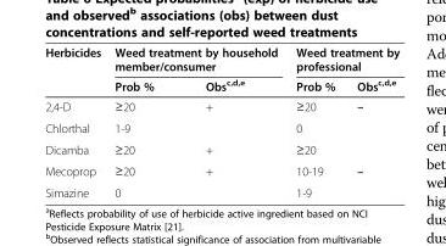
<table><thead><tr><td rowspan="2">Herbicides</td><td colspan="2">Weed treatment by household member/consumer</td><td colspan="2">Weed treatment by professional</td></tr><tr><td>Prob %</td><td>Obs<sup>c,d,e</sup></td><td>Prob %</td><td>Obs<sup>c,d,e</sup></td></tr></thead><tbody><tr><td>2,4-D</td><td>≥20</td><td>+</td><td>≥20</td><td>–</td></tr><tr><td>Chlorthal</td><td>1-9</td><td></td><td>0</td><td></td></tr><tr><td>Dicamba</td><td>≥20</td><td>+</td><td>≥20</td><td></td></tr><tr><td>Mecoprop</td><td>≥20</td><td>+</td><td>10-19</td><td>–</td></tr><tr><td>Simazine</td><td>0</td><td></td><td>1-9</td><td></td></tr></tbody></table>